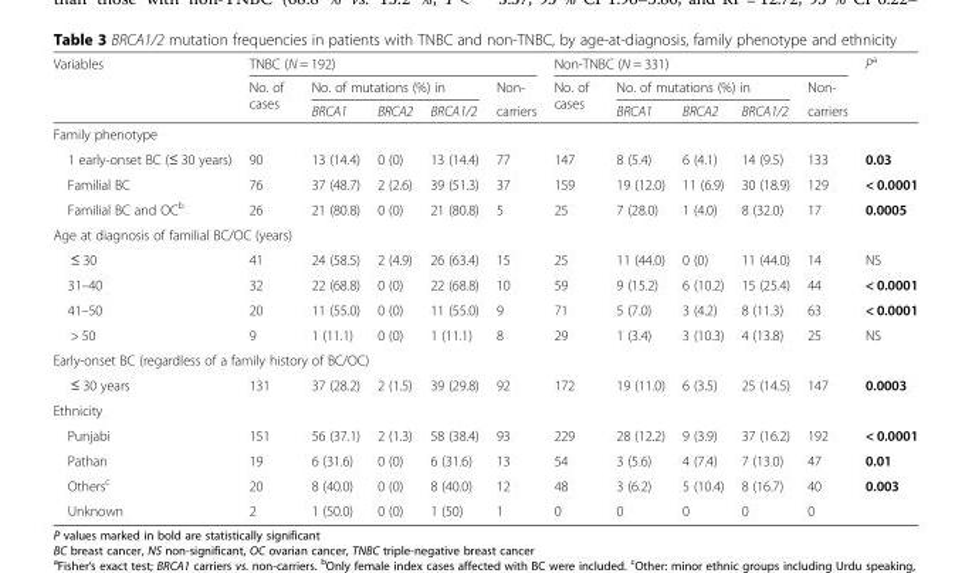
<table><thead><tr><td rowspan="3">Variables</td><td colspan="5">TNBC (N = 192)</td><td colspan="5">Non-TNBC (N = 331)</td><td rowspan="3">P<sup>a</sup></td></tr><tr><td rowspan="2">No. of cases</td><td colspan="3">No. of mutations (%) in</td><td rowspan="2">Non- carriers</td><td rowspan="2">No. of cases</td><td colspan="3">No. of mutations (%) in</td><td rowspan="2">Non- carriers</td></tr><tr><td>BRCA1</td><td>BRCA2</td><td>BRCA1/2</td><td>BRCA1</td><td>BRCA2</td><td>BRCA1/2</td></tr></thead><tbody><tr><td colspan="12">Family phenotype</td></tr><tr><td>1 early-onset BC (≤ 30 years)</td><td>90</td><td>13 (14.4)</td><td>0 (0)</td><td>13 (14.4)</td><td>77</td><td>147</td><td>8 (5.4)</td><td>6 (4.1)</td><td>14 (9.5)</td><td>133</td><td>0.03</td></tr><tr><td>Familial BC</td><td>76</td><td>37 (48.7)</td><td>2 (2.6)</td><td>39 (51.3)</td><td>37</td><td>159</td><td>19 (12.0)</td><td>11 (6.9)</td><td>30 (18.9)</td><td>129</td><td>&lt; 0.0001</td></tr><tr><td>Familial BC and OC<sup>b</sup></td><td>26</td><td>21 (80.8)</td><td>0 (0)</td><td>21 (80.8)</td><td>5</td><td>25</td><td>7 (28.0)</td><td>1 (4.0)</td><td>8 (32.0)</td><td>17</td><td>0.0005</td></tr><tr><td colspan="12">Age at diagnosis of familial BC/OC (years)</td></tr><tr><td>≤ 30</td><td>41</td><td>24 (58.5)</td><td>2 (4.9)</td><td>26 (63.4)</td><td>15</td><td>25</td><td>11 (44.0)</td><td>0 (0)</td><td>11 (44.0)</td><td>14</td><td>NS</td></tr><tr><td>31–40</td><td>32</td><td>22 (68.8)</td><td>0 (0)</td><td>22 (68.8)</td><td>10</td><td>59</td><td>9 (15.2)</td><td>6 (10.2)</td><td>15 (25.4)</td><td>44</td><td>&lt; 0.0001</td></tr><tr><td>41–50</td><td>20</td><td>11 (55.0)</td><td>0 (0)</td><td>11 (55.0)</td><td>9</td><td>71</td><td>5 (7.0)</td><td>3 (4.2)</td><td>8 (11.3)</td><td>63</td><td>&lt; 0.0001</td></tr><tr><td>&gt; 50</td><td>9</td><td>1 (11.1)</td><td>0 (0)</td><td>1 (11.1)</td><td>8</td><td>29</td><td>1 (3.4)</td><td>3 (10.3)</td><td>4 (13.8)</td><td>25</td><td>NS</td></tr><tr><td colspan="12">Early-onset BC (regardless of a family history of BC/OC)</td></tr><tr><td>≤ 30 years</td><td>131</td><td>37 (28.2)</td><td>2 (1.5)</td><td>39 (29.8)</td><td>92</td><td>172</td><td>19 (11.0)</td><td>6 (3.5)</td><td>25 (14.5)</td><td>147</td><td>0.0003</td></tr><tr><td colspan="12">Ethnicity</td></tr><tr><td>Punjabi</td><td>151</td><td>56 (37.1)</td><td>2 (1.3)</td><td>58 (38.4)</td><td>93</td><td>229</td><td>28 (12.2)</td><td>9 (3.9)</td><td>37 (16.2)</td><td>192</td><td>&lt; 0.0001</td></tr><tr><td>Pathan</td><td>19</td><td>6 (31.6)</td><td>0 (0)</td><td>6 (31.6)</td><td>13</td><td>54</td><td>3 (5.6)</td><td>4 (7.4)</td><td>7 (13.0)</td><td>47</td><td>0.01</td></tr><tr><td>Others<sup>c</sup></td><td>20</td><td>8 (40.0)</td><td>0 (0)</td><td>8 (40.0)</td><td>12</td><td>48</td><td>3 (6.2)</td><td>5 (10.4)</td><td>8 (16.7)</td><td>40</td><td>0.003</td></tr><tr><td>Unknown</td><td>2</td><td>1 (50.0)</td><td>0 (0)</td><td>1 (50)</td><td>1</td><td>0</td><td>0</td><td>0</td><td>0</td><td>0</td><td></td></tr></tbody></table>